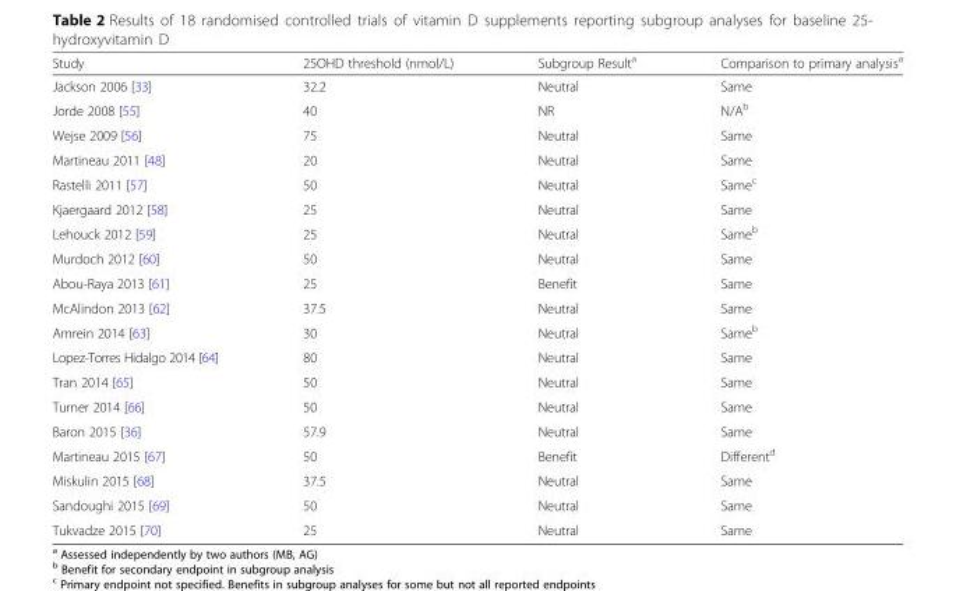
<table><thead><tr><td>Study</td><td>25OHD threshold (nmol/L)</td><td>Subgroup Result<sup>a</sup></td><td>Comparison to primary analysis<sup>a</sup></td></tr></thead><tbody><tr><td>Jackson 2006 [33]</td><td>32.2</td><td>Neutral</td><td>Same</td></tr><tr><td>Jorde 2008 [55]</td><td>40</td><td>NR</td><td>N/A<sup>b</sup></td></tr><tr><td>Wejse 2009 [56]</td><td>75</td><td>Neutral</td><td>Same</td></tr><tr><td>Martineau 2011 [48]</td><td>20</td><td>Neutral</td><td>Same</td></tr><tr><td>Rastelli 2011 [57]</td><td>50</td><td>Neutral</td><td>Same<sup>c</sup></td></tr><tr><td>Kjaergaard 2012 [58]</td><td>25</td><td>Neutral</td><td>Same</td></tr><tr><td>Lehouck 2012 [59]</td><td>25</td><td>Neutral</td><td>Same<sup>b</sup></td></tr><tr><td>Murdoch 2012 [60]</td><td>50</td><td>Neutral</td><td>Same</td></tr><tr><td>Abou-Raya 2013 [61]</td><td>25</td><td>Benefit</td><td>Same</td></tr><tr><td>McAlindon 2013 [62]</td><td>37.5</td><td>Neutral</td><td>Same</td></tr><tr><td>Amrein 2014 [63]</td><td>30</td><td>Neutral</td><td>Same<sup>b</sup></td></tr><tr><td>Lopez-Torres Hidalgo 2014 [64]</td><td>80</td><td>Neutral</td><td>Same</td></tr><tr><td>Tran 2014 [65]</td><td>50</td><td>Neutral</td><td>Same</td></tr><tr><td>Turner 2014 [66]</td><td>50</td><td>Neutral</td><td>Same</td></tr><tr><td>Baron 2015 [36]</td><td>57.9</td><td>Neutral</td><td>Same</td></tr><tr><td>Martineau 2015 [67]</td><td>50</td><td>Benefit</td><td>Different<sup>d</sup></td></tr><tr><td>Miskulin 2015 [68]</td><td>37.5</td><td>Neutral</td><td>Same</td></tr><tr><td>Sandoughi 2015 [69]</td><td>50</td><td>Neutral</td><td>Same</td></tr><tr><td>Tukvadze 2015 [70]</td><td>25</td><td>Neutral</td><td>Same</td></tr></tbody></table>